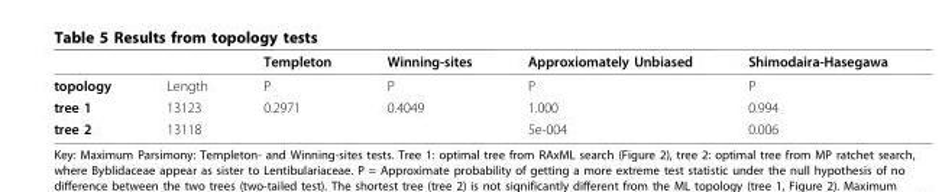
<table><thead><tr><td></td><td></td><td>Templeton</td><td>Winning-sites</td><td>Approxiomately Unbiased</td><td>Shimodaira-Hasegawa</td></tr></thead><tbody><tr><td>topology</td><td>Length</td><td>P</td><td>P</td><td>P</td><td>P</td></tr><tr><td>tree 1</td><td>13123</td><td>0.2971</td><td>0.4049</td><td>1.000</td><td>0.994</td></tr><tr><td>tree 2</td><td>13118</td><td></td><td></td><td>5e-004</td><td>0.006</td></tr></tbody></table>